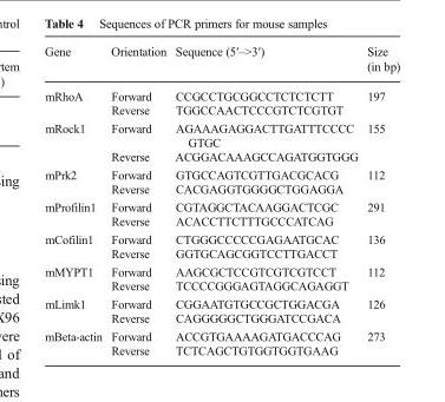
<table><thead><tr><td>Gene</td><td>Orientation</td><td>Sequence (5′–&gt;3′)</td><td>Size (in bp)</td></tr></thead><tbody><tr><td rowspan="2">mRhoA</td><td>Forward</td><td>CCGCCTGCGGCCTCTCTCTT</td><td rowspan="2">197</td></tr><tr><td>Reverse</td><td>TGGCCAACTCCCGTCTCGTGT</td></tr><tr><td rowspan="2">mRock1</td><td>Forward</td><td>AGAAAGAGGACTTGATTTCCCC GTGC</td><td rowspan="2">155</td></tr><tr><td>Reverse</td><td>ACGGACAAAGCCAGATGGTGGG</td></tr><tr><td rowspan="2">mPrk2</td><td>Forward</td><td>GTGCCAGTCGTTGACGCACG</td><td rowspan="2">112</td></tr><tr><td>Reverse</td><td>CACGAGGTGGGGCTGGAGGA</td></tr><tr><td rowspan="2">mProfilin1</td><td>Forward</td><td>CGTAGGCTACAAGGACTCGC</td><td rowspan="2">291</td></tr><tr><td>Reverse</td><td>ACACCTTCTTTGCCCATCAG</td></tr><tr><td rowspan="2">mCofilin1</td><td>Forward</td><td>CTGGGCCCCCGAGAATGCAC</td><td rowspan="2">136</td></tr><tr><td>Reverse</td><td>GGTGCAGCGGTCCTTGACCT</td></tr><tr><td rowspan="2">mMYPT1</td><td>Forward</td><td>AAGCGCTCCGTCGTCGTCCT</td><td rowspan="2">112</td></tr><tr><td>Reverse</td><td>TCCCCGGGAGTAGGCAGAGGT</td></tr><tr><td rowspan="2">mLimk1</td><td>Forward</td><td>CGGAATGTGCCGCTGGACGA</td><td rowspan="2">126</td></tr><tr><td>Reverse</td><td>CAGGGGGCTGGGATCCGACA</td></tr><tr><td rowspan="2">mBeta-actin</td><td>Forward</td><td>ACCGTGAAAAGATGACCCAG</td><td rowspan="2">273</td></tr><tr><td>Reverse</td><td>TCTCAGCTGTGGTGGTGAAG</td></tr></tbody></table>